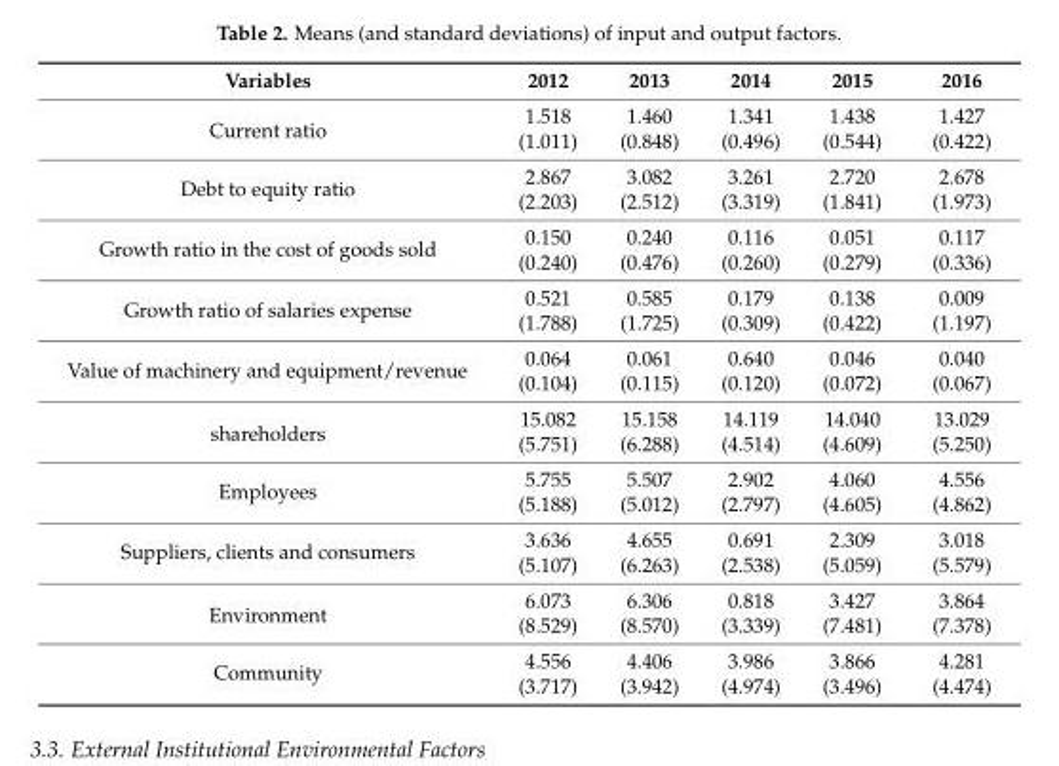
<table><thead><tr><td>Variables</td><td>2012</td><td>2013</td><td>2014</td><td>2015</td><td>2016</td></tr></thead><tbody><tr><td rowspan="2">Current ratio</td><td>1.518</td><td>1.460</td><td>1.341</td><td>1.438</td><td>1.427</td></tr><tr><td>(1.011)</td><td>(0.848)</td><td>(0.496)</td><td>(0.544)</td><td>(0.422)</td></tr><tr><td rowspan="2">Debt to equity ratio</td><td>2.867</td><td>3.082</td><td>3.261</td><td>2.720</td><td>2.678</td></tr><tr><td>(2.203)</td><td>(2.512)</td><td>(3.319)</td><td>(1.841)</td><td>(1.973)</td></tr><tr><td rowspan="2">Growth ratio in the cost of goods sold</td><td>0.150</td><td>0.240</td><td>0.116</td><td>0.051</td><td>0.117</td></tr><tr><td>(0.240)</td><td>(0.476)</td><td>(0.260)</td><td>(0.279)</td><td>(0.336)</td></tr><tr><td rowspan="2">Growth ratio of salaries expense</td><td>0.521</td><td>0.585</td><td>0.179</td><td>0.138</td><td>0.009</td></tr><tr><td>(1.788)</td><td>(1.725)</td><td>(0.309)</td><td>(0.422)</td><td>(1.197)</td></tr><tr><td rowspan="2">Value of machinery and equipment/revenue</td><td>0.064</td><td>0.061</td><td>0.640</td><td>0.046</td><td>0.040</td></tr><tr><td>(0.104)</td><td>(0.115)</td><td>(0.120)</td><td>(0.072)</td><td>(0.067)</td></tr><tr><td rowspan="2">shareholders</td><td>15.082</td><td>15.158</td><td>14.119</td><td>14.040</td><td>13.029</td></tr><tr><td>(5.751)</td><td>(6.288)</td><td>(4.514)</td><td>(4.609)</td><td>(5.250)</td></tr><tr><td rowspan="2">Employees</td><td>5.755</td><td>5.507</td><td>2.902</td><td>4.060</td><td>4.556</td></tr><tr><td>(5.188)</td><td>(5.012)</td><td>(2.797)</td><td>(4.605)</td><td>(4.862)</td></tr><tr><td rowspan="2">Suppliers, clients and consumers</td><td>3.636</td><td>4.655</td><td>0.691</td><td>2.309</td><td>3.018</td></tr><tr><td>(5.107)</td><td>(6.263)</td><td>(2.538)</td><td>(5.059)</td><td>(5.579)</td></tr><tr><td rowspan="2">Environment</td><td>6.073</td><td>6.306</td><td>0.818</td><td>3.427</td><td>3.864</td></tr><tr><td>(8.529)</td><td>(8.570)</td><td>(3.339)</td><td>(7.481)</td><td>(7.378)</td></tr><tr><td rowspan="2">Community</td><td>4.556</td><td>4.406</td><td>3.986</td><td>3.866</td><td>4.281</td></tr><tr><td>(3.717)</td><td>(3.942)</td><td>(4.974)</td><td>(3.496)</td><td>(4.474)</td></tr></tbody></table>